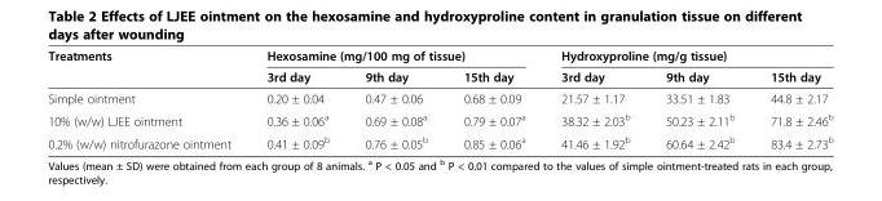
<table><thead><tr><td rowspan="2">Treatments</td><td colspan="3">Hexosamine (mg/100 mg of tissue)</td><td colspan="3">Hydroxyproline (mg/g tissue)</td></tr><tr><td>3rd day</td><td>9th day</td><td>15th day</td><td>3rd day</td><td>9th day</td><td>15th day</td></tr></thead><tbody><tr><td>Simple ointment</td><td>0.20 ± 0.04</td><td>0.47 ± 0.06</td><td>0.68 ± 0.09</td><td>21.57 ± 1.17</td><td>33.51 ± 1.83</td><td>44.8 ± 2.17</td></tr><tr><td>10% (w/w) LJEE ointment</td><td>0.36 ± 0.06<sup>a</sup></td><td>0.69 ± 0.08<sup>a</sup></td><td>0.79 ± 0.07<sup>a</sup></td><td>38.32 ± 2.03<sup>b</sup></td><td>50.23 ± 2.11<sup>b</sup></td><td>71.8 ± 2.46<sup>b</sup></td></tr><tr><td>0.2% (w/w) nitrofurazone ointment</td><td>0.41 ± 0.09<sup>b</sup></td><td>0.76 ± 0.05<sup>b</sup></td><td>0.85 ± 0.06<sup>a</sup></td><td>41.46 ± 1.92<sup>b</sup></td><td>60.64 ± 2.42<sup>b</sup></td><td>83.4 ± 2.73<sup>b</sup></td></tr></tbody></table>